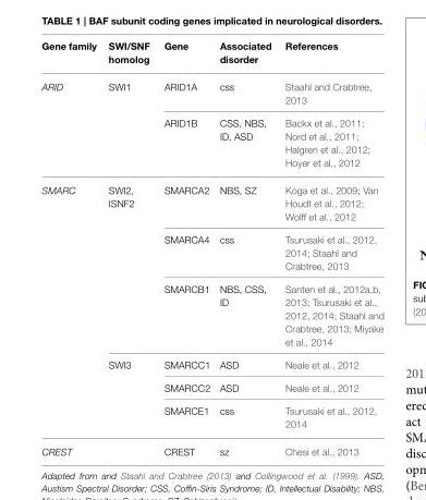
<table><thead><tr><td>Gene family</td><td>SWI/SNF homolog</td><td>Gene</td><td>Associated disorder</td><td>References</td></tr></thead><tbody><tr><td rowspan="2">ARID</td><td>SWI1</td><td>ARID1A</td><td>css</td><td>Staahl and Crabtree, 2013</td></tr><tr><td></td><td>ARID1B</td><td>CSS, NBS, ID, ASD</td><td>Backx et al., 2011; Nord et al., 2011; Halgren et al., 2012; Hoyer et al., 2012</td></tr><tr><td rowspan="6">SMARC</td><td>SWI2, ISNF2</td><td>SMARCA2</td><td>NBS, SZ</td><td>Koga et al., 2009; Van Houdt et al., 2012; Wolff et al., 2012</td></tr><tr><td></td><td>SMARCA4</td><td>css</td><td>Tsurusaki et al., 2012, 2014; Staahl and Crabtree, 2013</td></tr><tr><td></td><td>SMARCB1</td><td>NBS, CSS, ID</td><td>Santen et al., 2012a,b, 2013; Tsurusaki et al., 2012, 2014; Staahl and Crabtree, 2013; Miyake et al., 2014</td></tr><tr><td>SWI3</td><td>SMARCC1</td><td>ASD</td><td>Neale et al., 2012</td></tr><tr><td></td><td>SMARCC2</td><td>ASD</td><td>Neale et al., 2012</td></tr><tr><td></td><td>SMARCE1</td><td>css</td><td>Tsurusaki et al., 2012, 2014</td></tr><tr><td>CREST</td><td></td><td>CREST</td><td>sz</td><td>Chesi et al., 2013</td></tr></tbody></table>